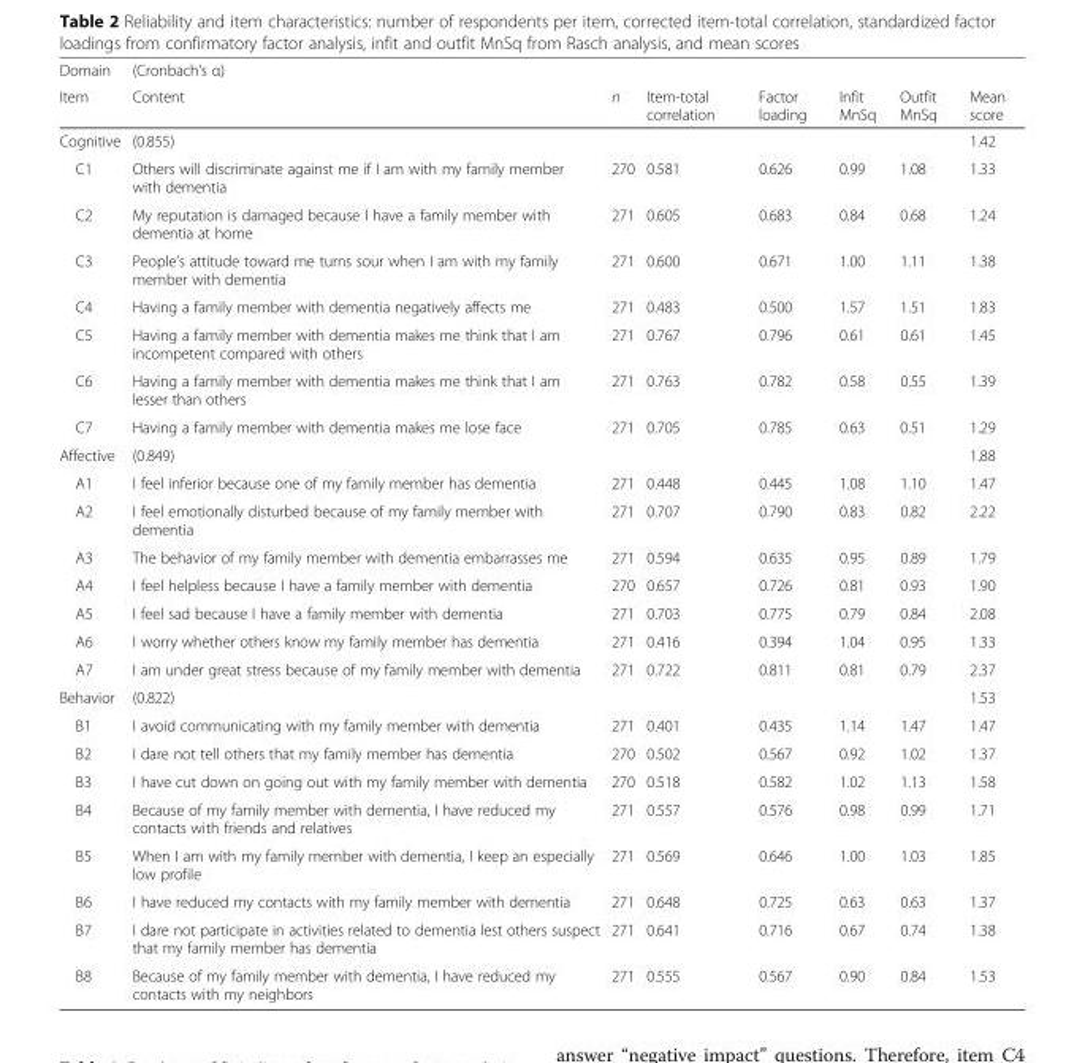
<table><thead><tr><td rowspan="2">Domain Item</td><td rowspan="2">(Cronbach’s α) Content</td><td rowspan="2">n</td><td rowspan="2">Item-total correlation</td><td rowspan="2">Factor loading</td><td rowspan="2">Infit MnSq</td><td rowspan="2">Outfit MnSq</td><td rowspan="2">Mean score</td></tr><tr></tr></thead><tbody><tr><td>Cognitive</td><td>(0.855)</td><td></td><td></td><td></td><td></td><td></td><td>1.42</td></tr><tr><td>C1</td><td>Others will discriminate against me if I am with my family member with dementia</td><td>270</td><td>0.581</td><td>0.626</td><td>0.99</td><td>1.08</td><td>1.33</td></tr><tr><td>C2</td><td>My reputation is damaged because I have a family member with dementia at home</td><td>271</td><td>0.605</td><td>0.683</td><td>0.84</td><td>0.68</td><td>1.24</td></tr><tr><td>C3</td><td>People’s attitude toward me turns sour when I am with my family member with dementia</td><td>271</td><td>0.600</td><td>0.671</td><td>1.00</td><td>1.11</td><td>1.38</td></tr><tr><td>C4</td><td>Having a family member with dementia negatively affects me</td><td>271</td><td>0.483</td><td>0.500</td><td>1.57</td><td>1.51</td><td>1.83</td></tr><tr><td>C5</td><td>Having a family member with dementia makes me think that I am incompetent compared with others</td><td>271</td><td>0.767</td><td>0.796</td><td>0.61</td><td>0.61</td><td>1.45</td></tr><tr><td>C6</td><td>Having a family member with dementia makes me think that I am lesser than others</td><td>271</td><td>0.763</td><td>0.782</td><td>0.58</td><td>0.55</td><td>1.39</td></tr><tr><td>C7</td><td>Having a family member with dementia makes me lose face</td><td>271</td><td>0.705</td><td>0.785</td><td>0.63</td><td>0.51</td><td>1.29</td></tr><tr><td>Affective</td><td>(0.849)</td><td></td><td></td><td></td><td></td><td></td><td>1.88</td></tr><tr><td>A1</td><td>I feel inferior because one of my family member has dementia</td><td>271</td><td>0.448</td><td>0.445</td><td>1.08</td><td>1.10</td><td>1.47</td></tr><tr><td>A2</td><td>I feel emotionally disturbed because of my family member with dementia</td><td>271</td><td>0.707</td><td>0.790</td><td>0.83</td><td>0.82</td><td>2.22</td></tr><tr><td>A3</td><td>The behavior of my family member with dementia embarrasses me</td><td>271</td><td>0.594</td><td>0.635</td><td>0.95</td><td>0.89</td><td>1.79</td></tr><tr><td>A4</td><td>I feel helpless because I have a family member with dementia</td><td>270</td><td>0.657</td><td>0.726</td><td>0.81</td><td>0.93</td><td>1.90</td></tr><tr><td>A5</td><td>I feel sad because I have a family member with dementia</td><td>271</td><td>0.703</td><td>0.775</td><td>0.79</td><td>0.84</td><td>2.08</td></tr><tr><td>A6</td><td>I worry whether others know my family member has dementia</td><td>271</td><td>0.416</td><td>0.394</td><td>1.04</td><td>0.95</td><td>1.33</td></tr><tr><td>A7</td><td>I am under great stress because of my family member with dementia</td><td>271</td><td>0.722</td><td>0.811</td><td>0.81</td><td>0.79</td><td>2.37</td></tr><tr><td>Behavior</td><td>(0.822)</td><td></td><td></td><td></td><td></td><td></td><td>1.53</td></tr><tr><td>B1</td><td>I avoid communicating with my family member with dementia</td><td>271</td><td>0.401</td><td>0.435</td><td>1.14</td><td>1.47</td><td>1.47</td></tr><tr><td>B2</td><td>I dare not tell others that my family member has dementia</td><td>270</td><td>0.502</td><td>0.567</td><td>0.92</td><td>1.02</td><td>1.37</td></tr><tr><td>B3</td><td>I have cut down on going out with my family member with dementia</td><td>270</td><td>0.518</td><td>0.582</td><td>1.02</td><td>1.13</td><td>1.58</td></tr><tr><td>B4</td><td>Because of my family member with dementia, I have reduced my contacts with friends and relatives</td><td>271</td><td>0.557</td><td>0.576</td><td>0.98</td><td>0.99</td><td>1.71</td></tr><tr><td>B5</td><td>When I am with my family member with dementia, I keep an especially low profile</td><td>271</td><td>0.569</td><td>0.646</td><td>1.00</td><td>1.03</td><td>1.85</td></tr><tr><td>B6</td><td>I have reduced my contacts with my family member with dementia</td><td>271</td><td>0.648</td><td>0.725</td><td>0.63</td><td>0.63</td><td>1.37</td></tr><tr><td>B7</td><td>I dare not participate in activities related to dementia lest others suspect that my family member has dementia</td><td>271</td><td>0.641</td><td>0.716</td><td>0.67</td><td>0.74</td><td>1.38</td></tr><tr><td>B8</td><td>Because of my family member with dementia, I have reduced my contacts with my neighbors</td><td>271</td><td>0.555</td><td>0.567</td><td>0.90</td><td>0.84</td><td>1.53</td></tr></tbody></table>